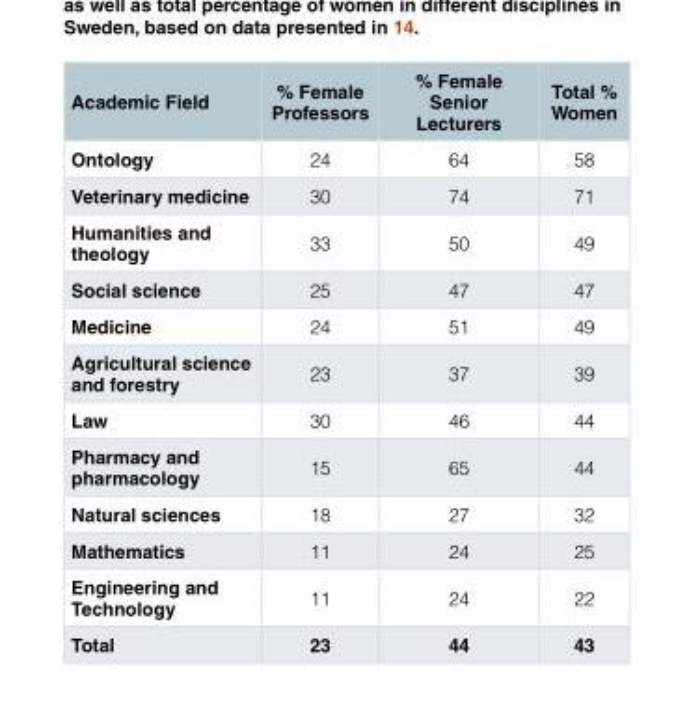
<table><thead><tr><td>Academic Field</td><td>% Female Professors</td><td>% Female Senior Lecturers</td><td>Total % Women</td></tr></thead><tbody><tr><td>Ontology</td><td>24</td><td>64</td><td>58</td></tr><tr><td>Veterinary medicine</td><td>30</td><td>74</td><td>71</td></tr><tr><td>Humanities and theology</td><td>33</td><td>50</td><td>49</td></tr><tr><td>Social science</td><td>25</td><td>47</td><td>47</td></tr><tr><td>Medicine</td><td>24</td><td>51</td><td>49</td></tr><tr><td>Agricultural science and forestry</td><td>23</td><td>37</td><td>39</td></tr><tr><td>Law</td><td>30</td><td>46</td><td>44</td></tr><tr><td>Pharmacy and pharmacology</td><td>15</td><td>65</td><td>44</td></tr><tr><td>Natural sciences</td><td>18</td><td>27</td><td>32</td></tr><tr><td>Mathematics</td><td>11</td><td>24</td><td>25</td></tr><tr><td>Engineering and Technology</td><td>11</td><td>24</td><td>22</td></tr><tr><td>Total</td><td>23</td><td>44</td><td>43</td></tr></tbody></table>